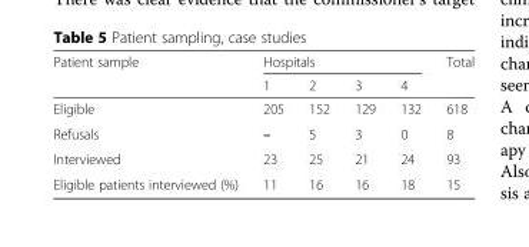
<table><thead><tr><td rowspan="2">Patient sample</td><td colspan="4">Hospitals</td><td rowspan="2">Total</td></tr><tr><td>1</td><td>2</td><td>3</td><td>4</td></tr></thead><tbody><tr><td>Eligible</td><td>205</td><td>152</td><td>129</td><td>132</td><td>618</td></tr><tr><td>Refusals</td><td>–</td><td>5</td><td>3</td><td>0</td><td>8</td></tr><tr><td>Interviewed</td><td>23</td><td>25</td><td>21</td><td>24</td><td>93</td></tr><tr><td>Eligible patients interviewed (%)</td><td>11</td><td>16</td><td>16</td><td>18</td><td>15</td></tr></tbody></table>